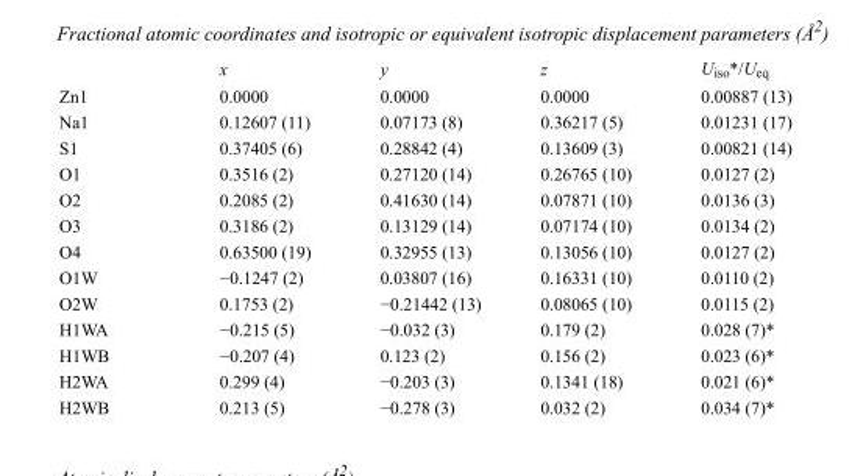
<table><thead><tr><td></td><td>x</td><td>y</td><td>z</td><td>U<sub>iso</sub>*/U<sub>eq</sub></td></tr></thead><tbody><tr><td>Zn1</td><td>0.0000</td><td>0.0000</td><td>0.0000</td><td>0.00887 (13)</td></tr><tr><td>Na1</td><td>0.12607 (11)</td><td>0.07173 (8)</td><td>0.36217 (5)</td><td>0.01231 (17)</td></tr><tr><td>S1</td><td>0.37405 (6)</td><td>0.28842 (4)</td><td>0.13609 (3)</td><td>0.00821 (14)</td></tr><tr><td>O1</td><td>0.3516 (2)</td><td>0.27120 (14)</td><td>0.26765 (10)</td><td>0.0127 (2)</td></tr><tr><td>O2</td><td>0.2085 (2)</td><td>0.41630 (14)</td><td>0.07871 (10)</td><td>0.0136 (3)</td></tr><tr><td>O3</td><td>0.3186 (2)</td><td>0.13129 (14)</td><td>0.07174 (10)</td><td>0.0134 (2)</td></tr><tr><td>O4</td><td>0.63500 (19)</td><td>0.32955 (13)</td><td>0.13056 (10)</td><td>0.0127 (2)</td></tr><tr><td>O1W</td><td>−0.1247 (2)</td><td>0.03807 (16)</td><td>0.16331 (10)</td><td>0.0110 (2)</td></tr><tr><td>O2W</td><td>0.1753 (2)</td><td>−0.21442 (13)</td><td>0.08065 (10)</td><td>0.0115 (2)</td></tr><tr><td>H1WA</td><td>−0.215 (5)</td><td>−0.032 (3)</td><td>0.179 (2)</td><td>0.028 (7)*</td></tr><tr><td>H1WB</td><td>−0.207 (4)</td><td>0.123 (2)</td><td>0.156 (2)</td><td>0.023 (6)*</td></tr><tr><td>H2WA</td><td>0.299 (4)</td><td>−0.203 (3)</td><td>0.1341 (18)</td><td>0.021 (6)*</td></tr><tr><td>H2WB</td><td>0.213 (5)</td><td>−0.278 (3)</td><td>0.032 (2)</td><td>0.034 (7)*</td></tr></tbody></table>